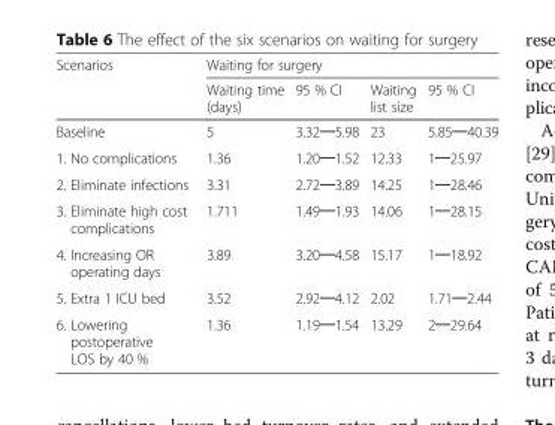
<table><thead><tr><td rowspan="2">Scenarios</td><td colspan="4">Waiting for surgery</td></tr><tr><td>Waiting time (days)</td><td>95 % CI</td><td>Waiting list size</td><td>95 % CI</td></tr></thead><tbody><tr><td>Baseline</td><td>5</td><td>3.32─5.98</td><td>23</td><td>5.85─40.39</td></tr><tr><td>1. No complications</td><td>1.36</td><td>1.20─1.52</td><td>12.33</td><td>1─25.97</td></tr><tr><td>2. Eliminate infections</td><td>3.31</td><td>2.72─3.89</td><td>14.25</td><td>1─28.46</td></tr><tr><td>3. Eliminate high cost complications</td><td>1.711</td><td>1.49─1.93</td><td>14.06</td><td>1─28.15</td></tr><tr><td>4. Increasing OR operating days</td><td>3.89</td><td>3.20─4.58</td><td>15.17</td><td>1─18.92</td></tr><tr><td>5. Extra 1 ICU bed</td><td>3.52</td><td>2.92─4.12</td><td>2.02</td><td>1.71─2.44</td></tr><tr><td>6. Lowering postoperative LOS by 40 %</td><td>1.36</td><td>1.19─1.54</td><td>13.29</td><td>2─29.64</td></tr></tbody></table>